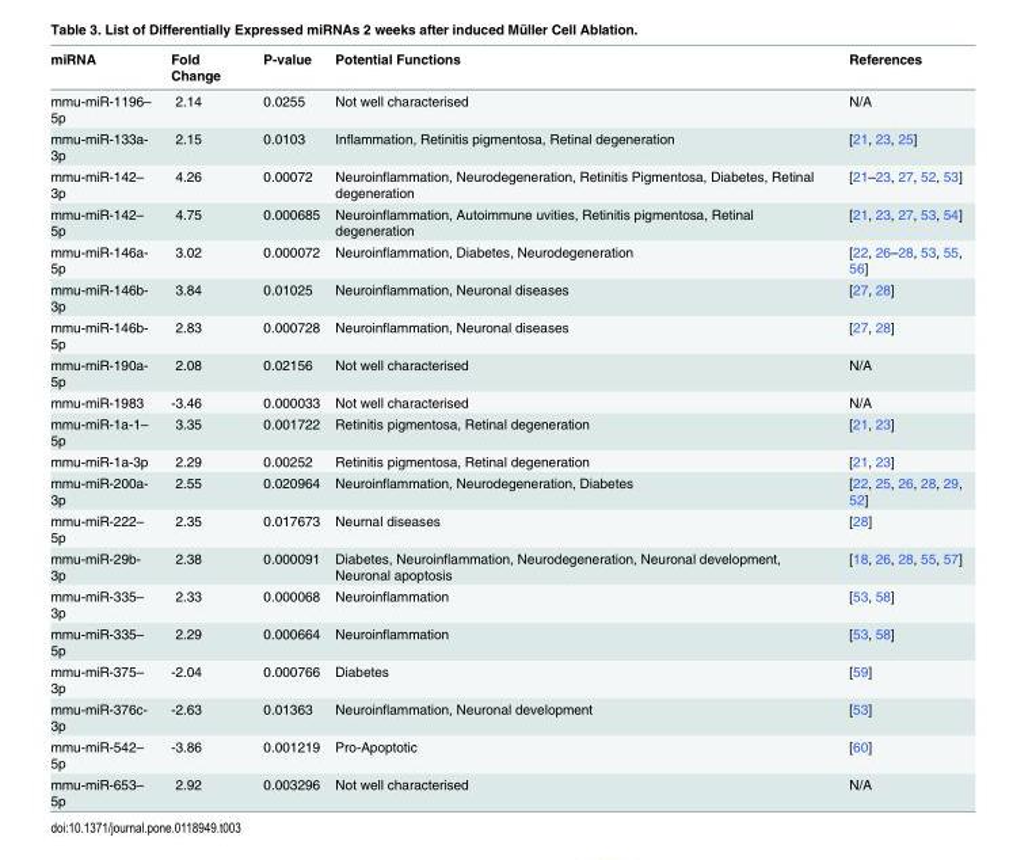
<table><thead><tr><td>miRNA</td><td>Fold Change</td><td>P-value</td><td>Potential Functions</td><td>References</td></tr></thead><tbody><tr><td>mmu-miR-1196– 5p</td><td>2.14</td><td>0.0255</td><td>Not well characterised</td><td>N/A</td></tr><tr><td>mmu-miR-133a- 3p</td><td>2.15</td><td>0.0103</td><td>Inflammation, Retinitis pigmentosa, Retinal degeneration</td><td>[21, 23, 25]</td></tr><tr><td>mmu-miR-142– 3p</td><td>4.26</td><td>0.00072</td><td>Neuroinflammation, Neurodegeneration, Retinitis Pigmentosa, Diabetes, Retinal degeneration</td><td>[21–23, 27, 52, 53]</td></tr><tr><td>mmu-miR-142– 5p</td><td>4.75</td><td>0.000685</td><td>Neuroinflammation, Autoimmune uvities, Retinitis pigmentosa, Retinal degeneration</td><td>[21, 23, 27, 53, 54]</td></tr><tr><td>mmu-miR-146a- 5p</td><td>3.02</td><td>0.000072</td><td>Neuroinflammation, Diabetes, Neurodegeneration</td><td>[22, 26–28, 53, 55, 56]</td></tr><tr><td>mmu-miR-146b- 3p</td><td>3.84</td><td>0.01025</td><td>Neuroinflammation, Neuronal diseases</td><td>[27, 28]</td></tr><tr><td>mmu-miR-146b- 5p</td><td>2.83</td><td>0.000728</td><td>Neuroinflammation, Neuronal diseases</td><td>[27, 28]</td></tr><tr><td>mmu-miR-190a- 5p</td><td>2.08</td><td>0.02156</td><td>Not well characterised</td><td>N/A</td></tr><tr><td>mmu-miR-1983</td><td>-3.46</td><td>0.000033</td><td>Not well characterised</td><td>N/A</td></tr><tr><td>mmu-miR-1a-1– 5p</td><td>3.35</td><td>0.001722</td><td>Retinitis pigmentosa, Retinal degeneration</td><td>[21, 23]</td></tr><tr><td>mmu-miR-1a-3p</td><td>2.29</td><td>0.00252</td><td>Retinitis pigmentosa, Retinal degeneration</td><td>[21, 23]</td></tr><tr><td>mmu-miR-200a- 3p</td><td>2.55</td><td>0.020964</td><td>Neuroinflammation, Neurodegeneration, Diabetes</td><td>[22, 25, 26, 28, 29, 52]</td></tr><tr><td>mmu-miR-222– 5p</td><td>2.35</td><td>0.017673</td><td>Neurnal diseases</td><td>[28]</td></tr><tr><td>mmu-miR-29b- 3p</td><td>2.38</td><td>0.000091</td><td>Diabetes, Neuroinflammation, Neurodegeneration, Neuronal development, Neuronal apoptosis</td><td>[18, 26, 28, 55, 57]</td></tr><tr><td>mmu-miR-335– 3p</td><td>2.33</td><td>0.000068</td><td>Neuroinflammation</td><td>[53, 58]</td></tr><tr><td>mmu-miR-335– 5p</td><td>2.29</td><td>0.000664</td><td>Neuroinflammation</td><td>[53, 58]</td></tr><tr><td>mmu-miR-375– 3p</td><td>-2.04</td><td>0.000766</td><td>Diabetes</td><td>[59]</td></tr><tr><td>mmu-miR-376c- 3p</td><td>-2.63</td><td>0.01363</td><td>Neuroinflammation, Neuronal development</td><td>[53]</td></tr><tr><td>mmu-miR-542– 5p</td><td>-3.86</td><td>0.001219</td><td>Pro-Apoptotic</td><td>[60]</td></tr><tr><td>mmu-miR-653– 5p</td><td>2.92</td><td>0.003296</td><td>Not well characterised</td><td>N/A</td></tr></tbody></table>